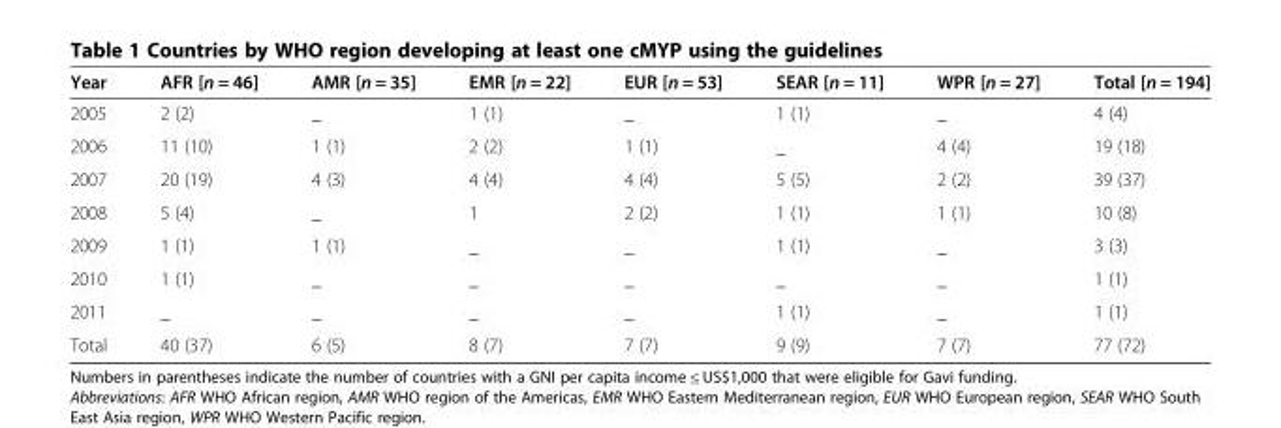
<table><thead><tr><td>Year</td><td>AFR [n = 46]</td><td>AMR [n = 35]</td><td>EMR [n = 22]</td><td>EUR [n = 53]</td><td>SEAR [n = 11]</td><td>WPR [n = 27]</td><td>Total [n = 194]</td></tr></thead><tbody><tr><td>2005</td><td>2 (2)</td><td>_</td><td>1 (1)</td><td>_</td><td>1 (1)</td><td>_</td><td>4 (4)</td></tr><tr><td>2006</td><td>11 (10)</td><td>1 (1)</td><td>2 (2)</td><td>1 (1)</td><td>_</td><td>4 (4)</td><td>19 (18)</td></tr><tr><td>2007</td><td>20 (19)</td><td>4 (3)</td><td>4 (4)</td><td>4 (4)</td><td>5 (5)</td><td>2 (2)</td><td>39 (37)</td></tr><tr><td>2008</td><td>5 (4)</td><td>_</td><td>1</td><td>2 (2)</td><td>1 (1)</td><td>1 (1)</td><td>10 (8)</td></tr><tr><td>2009</td><td>1 (1)</td><td>1 (1)</td><td>_</td><td>_</td><td>1 (1)</td><td>_</td><td>3 (3)</td></tr><tr><td>2010</td><td>1 (1)</td><td>_</td><td>_</td><td>_</td><td>_</td><td>_</td><td>1 (1)</td></tr><tr><td>2011</td><td>_</td><td>_</td><td>_</td><td>_</td><td>1 (1)</td><td>_</td><td>1 (1)</td></tr><tr><td>Total</td><td>40 (37)</td><td>6 (5)</td><td>8 (7)</td><td>7 (7)</td><td>9 (9)</td><td>7 (7)</td><td>77 (72)</td></tr></tbody></table>